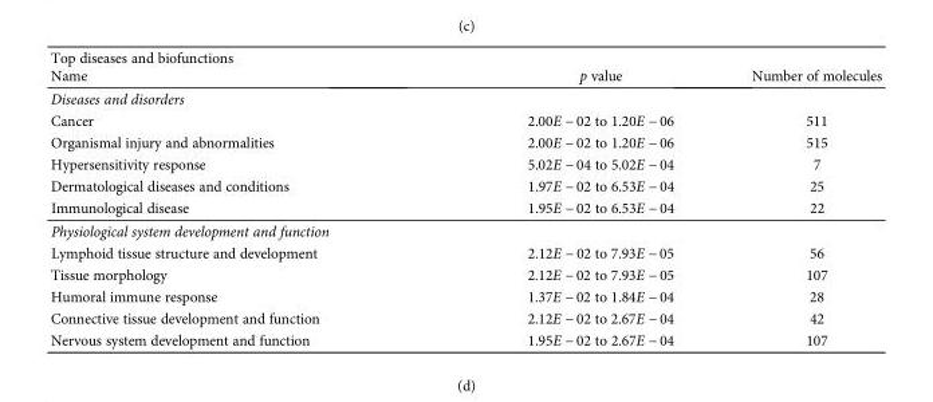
<table><thead><tr><td rowspan="2">Top diseases and biofunctions Name</td><td rowspan="2">p value</td><td rowspan="2">Number of molecules</td></tr><tr></tr></thead><tbody><tr><td colspan="3">Diseases and disorders</td></tr><tr><td>Cancer</td><td>2.00E − 02 to 1.20E − 06</td><td>511</td></tr><tr><td>Organismal injury and abnormalities</td><td>2.00E − 02 to 1.20E − 06</td><td>515</td></tr><tr><td>Hypersensitivity response</td><td>5.02E − 04 to 5.02E − 04</td><td>7</td></tr><tr><td>Dermatological diseases and conditions</td><td>1.97E − 02 to 6.53E − 04</td><td>25</td></tr><tr><td>Immunological disease</td><td>1.95E − 02 to 6.53E − 04</td><td>22</td></tr><tr><td colspan="3">Physiological system development and function</td></tr><tr><td>Lymphoid tissue structure and development</td><td>2.12E − 02 to 7.93E − 05</td><td>56</td></tr><tr><td>Tissue morphology</td><td>2.12E − 02 to 7.93E − 05</td><td>107</td></tr><tr><td>Humoral immune response</td><td>1.37E − 02 to 1.84E − 04</td><td>28</td></tr><tr><td>Connective tissue development and function</td><td>2.12E − 02 to 2.67E − 04</td><td>42</td></tr><tr><td>Nervous system development and function</td><td>1.95E − 02 to 2.67E − 04</td><td>107</td></tr></tbody></table>